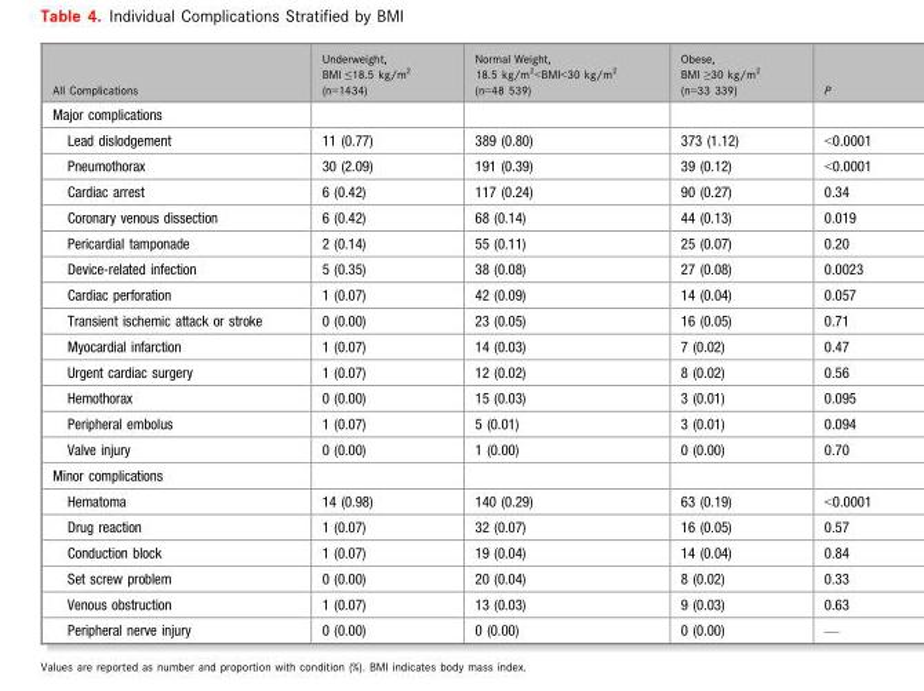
<table><thead><tr><td>All Complications</td><td>Underweight, BMI ≤18.5 kg/m<sup>2</sup> (n=1434)</td><td>Normal Weight, 18.5 kg/m<sup>2</sup>&lt;BMI&lt;30 kg/m<sup>2</sup> (n=48 539)</td><td>Obese, BMI ≥30 kg/m<sup>2</sup> (n=33 339)</td><td>P</td></tr></thead><tbody><tr><td colspan="5">Major complications</td></tr><tr><td>Lead dislodgement</td><td>11 (0.77)</td><td>389 (0.80)</td><td>373 (1.12)</td><td>&lt;0.0001</td></tr><tr><td>Pneumothorax</td><td>30 (2.09)</td><td>191 (0.39)</td><td>39 (0.12)</td><td>&lt;0.0001</td></tr><tr><td>Cardiac arrest</td><td>6 (0.42)</td><td>117 (0.24)</td><td>90 (0.27)</td><td>0.34</td></tr><tr><td>Coronary venous dissection</td><td>6 (0.42)</td><td>68 (0.14)</td><td>44 (0.13)</td><td>0.019</td></tr><tr><td>Pericardial tamponade</td><td>2 (0.14)</td><td>55 (0.11)</td><td>25 (0.07)</td><td>0.20</td></tr><tr><td>Device-related infection</td><td>5 (0.35)</td><td>38 (0.08)</td><td>27 (0.08)</td><td>0.0023</td></tr><tr><td>Cardiac perforation</td><td>1 (0.07)</td><td>42 (0.09)</td><td>14 (0.04)</td><td>0.057</td></tr><tr><td>Transient ischemic attack or stroke</td><td>0 (0.00)</td><td>23 (0.05)</td><td>16 (0.05)</td><td>0.71</td></tr><tr><td>Myocardial infarction</td><td>1 (0.07)</td><td>14 (0.03)</td><td>7 (0.02)</td><td>0.47</td></tr><tr><td>Urgent cardiac surgery</td><td>1 (0.07)</td><td>12 (0.02)</td><td>8 (0.02)</td><td>0.56</td></tr><tr><td>Hemothorax</td><td>0 (0.00)</td><td>15 (0.03)</td><td>3 (0.01)</td><td>0.095</td></tr><tr><td>Peripheral embolus</td><td>1 (0.07)</td><td>5 (0.01)</td><td>3 (0.01)</td><td>0.094</td></tr><tr><td>Valve injury</td><td>0 (0.00)</td><td>1 (0.00)</td><td>0 (0.00)</td><td>0.70</td></tr><tr><td colspan="5">Minor complications</td></tr><tr><td>Hematoma</td><td>14 (0.98)</td><td>140 (0.29)</td><td>63 (0.19)</td><td>&lt;0.0001</td></tr><tr><td>Drug reaction</td><td>1 (0.07)</td><td>32 (0.07)</td><td>16 (0.05)</td><td>0.57</td></tr><tr><td>Conduction block</td><td>1 (0.07)</td><td>19 (0.04)</td><td>14 (0.04)</td><td>0.84</td></tr><tr><td>Set screw problem</td><td>0 (0.00)</td><td>20 (0.04)</td><td>8 (0.02)</td><td>0.33</td></tr><tr><td>Venous obstruction</td><td>1 (0.07)</td><td>13 (0.03)</td><td>9 (0.03)</td><td>0.63</td></tr><tr><td>Peripheral nerve injury</td><td>0 (0.00)</td><td>0 (0.00)</td><td>0 (0.00)</td><td>—</td></tr></tbody></table>